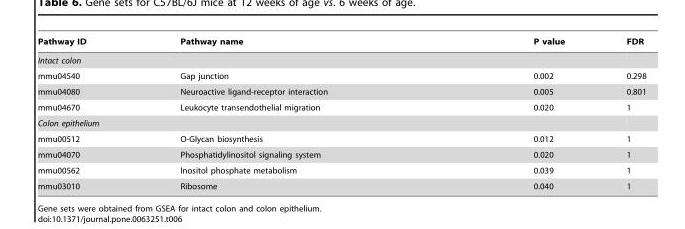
<table><thead><tr><td>Pathway ID</td><td>Pathway name</td><td>P value</td><td>FDR</td></tr></thead><tbody><tr><td colspan="4">Intact colon</td></tr><tr><td>mmu04540</td><td>Gap junction</td><td>0.002</td><td>0.298</td></tr><tr><td>mmu04080</td><td>Neuroactive ligand-receptor interaction</td><td>0.005</td><td>0.801</td></tr><tr><td>mmu04670</td><td>Leukocyte transendothelial migration</td><td>0.020</td><td>1</td></tr><tr><td colspan="4">Colon epithelium</td></tr><tr><td>mmu00512</td><td>O-Glycan biosynthesis</td><td>0.012</td><td>1</td></tr><tr><td>mmu04070</td><td>Phosphatidylinositol signaling system</td><td>0.020</td><td>1</td></tr><tr><td>mmu00562</td><td>Inositol phosphate metabolism</td><td>0.039</td><td>1</td></tr><tr><td>mmu03010</td><td>Ribosome</td><td>0.040</td><td>1</td></tr></tbody></table>